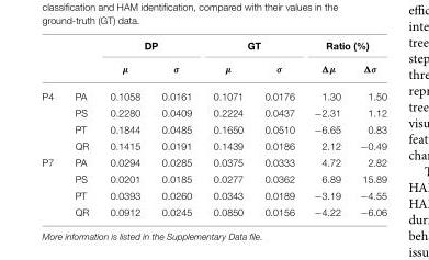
<table><thead><tr><td rowspan="2"></td><td rowspan="2"></td><td colspan="2">DP</td><td colspan="2">GT</td><td colspan="2">Ratio (%)</td></tr><tr><td>µ</td><td>σ</td><td>µ</td><td>σ</td><td>Δµ</td><td>Δσ</td></tr></thead><tbody><tr><td rowspan="4">P4</td><td>PA</td><td>0.1058</td><td>0.0161</td><td>0.1071</td><td>0.0176</td><td>1.30</td><td>1.50</td></tr><tr><td>PS</td><td>0.2280</td><td>0.0409</td><td>0.2224</td><td>0.0437</td><td>−2.31</td><td>1.12</td></tr><tr><td>PT</td><td>0.1844</td><td>0.0485</td><td>0.1650</td><td>0.0510</td><td>−6.65</td><td>0.83</td></tr><tr><td>QR</td><td>0.1415</td><td>0.0191</td><td>0.1439</td><td>0.0186</td><td>2.12</td><td>−0.49</td></tr><tr><td rowspan="4">P7</td><td>PA</td><td>0.0294</td><td>0.0285</td><td>0.0375</td><td>0.0333</td><td>4.72</td><td>2.82</td></tr><tr><td>PS</td><td>0.0201</td><td>0.0185</td><td>0.0277</td><td>0.0362</td><td>6.89</td><td>15.89</td></tr><tr><td>PT</td><td>0.0393</td><td>0.0260</td><td>0.0343</td><td>0.0189</td><td>−3.19</td><td>−4.55</td></tr><tr><td>QR</td><td>0.0912</td><td>0.0245</td><td>0.0850</td><td>0.0156</td><td>−4.22</td><td>−6.06</td></tr></tbody></table>